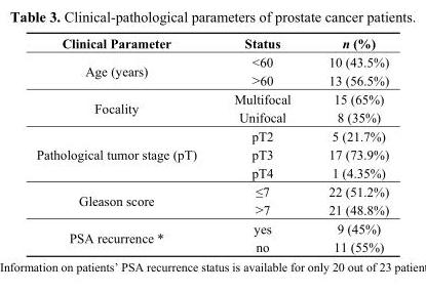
<table><thead><tr><td>Clinical Parameter</td><td>Status</td><td>n (%)</td></tr></thead><tbody><tr><td rowspan="2">Age (years)</td><td>&lt;60</td><td>10 (43.5%)</td></tr><tr><td>&gt;60</td><td>13 (56.5%)</td></tr><tr><td rowspan="2">Focality</td><td>Multifocal</td><td>15 (65%)</td></tr><tr><td>Unifocal</td><td>8 (35%)</td></tr><tr><td rowspan="3">Pathological tumor stage (pT)</td><td>pT2</td><td>5 (21.7%)</td></tr><tr><td>pT3</td><td>17 (73.9%)</td></tr><tr><td>pT4</td><td>1 (4.35%)</td></tr><tr><td rowspan="2">Gleason score</td><td>≤7</td><td>22 (51.2%)</td></tr><tr><td>&gt;7</td><td>21 (48.8%)</td></tr><tr><td rowspan="2">PSA recurrence *</td><td>yes</td><td>9 (45%)</td></tr><tr><td>no</td><td>11 (55%)</td></tr></tbody></table>